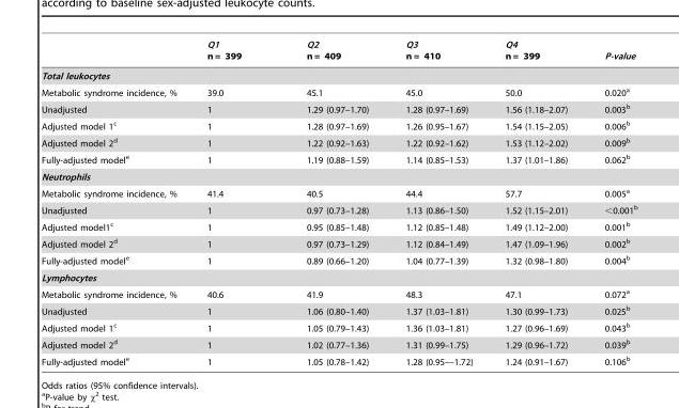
<table><thead><tr><td></td><td>Q1 n = 399</td><td>Q2 n = 409</td><td>Q3 n = 410</td><td>Q4 n = 399</td><td>P-value</td></tr></thead><tbody><tr><td colspan="6">Total leukocytes</td></tr><tr><td>Metabolic syndrome incidence, %</td><td>39.0</td><td>45.1</td><td>45.0</td><td>50.0</td><td>0.020<sup>a</sup></td></tr><tr><td>Unadjusted</td><td>1</td><td>1.29 (0.97–1.70)</td><td>1.28 (0.97–1.69)</td><td>1.56 (1.18–2.07)</td><td>0.003<sup>b</sup></td></tr><tr><td>Adjusted model 1<sup>c</sup></td><td>1</td><td>1.28 (0.97–1.69)</td><td>1.26 (0.95–1.67)</td><td>1.54 (1.15–2.05)</td><td>0.006<sup>b</sup></td></tr><tr><td>Adjusted model 2<sup>d</sup></td><td>1</td><td>1.22 (0.92–1.63)</td><td>1.22 (0.92–1.62)</td><td>1.53 (1.12–2.02)</td><td>0.009<sup>b</sup></td></tr><tr><td>Fully-adjusted model<sup>e</sup></td><td>1</td><td>1.19 (0.88–1.59)</td><td>1.14 (0.85–1.53)</td><td>1.37 (1.01–1.86)</td><td>0.062<sup>b</sup></td></tr><tr><td colspan="6">Neutrophils</td></tr><tr><td>Metabolic syndrome incidence, %</td><td>41.4</td><td>40.5</td><td>44.4</td><td>57.7</td><td>0.005<sup>a</sup></td></tr><tr><td>Unadjusted</td><td>1</td><td>0.97 (0.73–1.28)</td><td>1.13 (0.86–1.50)</td><td>1.52 (1.15–2.01)</td><td>&lt;0.001<sup>b</sup></td></tr><tr><td>Adjusted model1<sup>c</sup></td><td>1</td><td>0.95 (0.85–1.48)</td><td>1.12 (0.85–1.48)</td><td>1.49 (1.12–2.00)</td><td>0.001<sup>b</sup></td></tr><tr><td>Adjusted model 2<sup>d</sup></td><td>1</td><td>0.97 (0.73–1.29)</td><td>1.12 (0.84–1.49)</td><td>1.47 (1.09–1.96)</td><td>0.002<sup>b</sup></td></tr><tr><td>Fully-adjusted model<sup>e</sup></td><td>1</td><td>0.89 (0.66–1.20)</td><td>1.04 (0.77–1.39)</td><td>1.32 (0.98–1.80)</td><td>0.004<sup>b</sup></td></tr><tr><td colspan="6">Lymphocytes</td></tr><tr><td>Metabolic syndrome incidence, %</td><td>40.6</td><td>41.9</td><td>48.3</td><td>47.1</td><td>0.072<sup>a</sup></td></tr><tr><td>Unadjusted</td><td>1</td><td>1.06 (0.80–1.40)</td><td>1.37 (1.03–1.81)</td><td>1.30 (0.99–1.73)</td><td>0.025<sup>b</sup></td></tr><tr><td>Adjusted model 1<sup>c</sup></td><td>1</td><td>1.05 (0.79–1.43)</td><td>1.36 (1.03–1.81)</td><td>1.27 (0.96–1.69)</td><td>0.043<sup>b</sup></td></tr><tr><td>Adjusted model 2<sup>d</sup></td><td>1</td><td>1.02 (0.77–1.36)</td><td>1.31 (0.99–1.75)</td><td>1.29 (0.96–1.72)</td><td>0.039<sup>b</sup></td></tr><tr><td>Fully-adjusted model<sup>e</sup></td><td>1</td><td>1.05 (0.78–1.42)</td><td>1.28 (0.95––1.72)</td><td>1.24 (0.91–1.67)</td><td>0.106<sup>b</sup></td></tr></tbody></table>